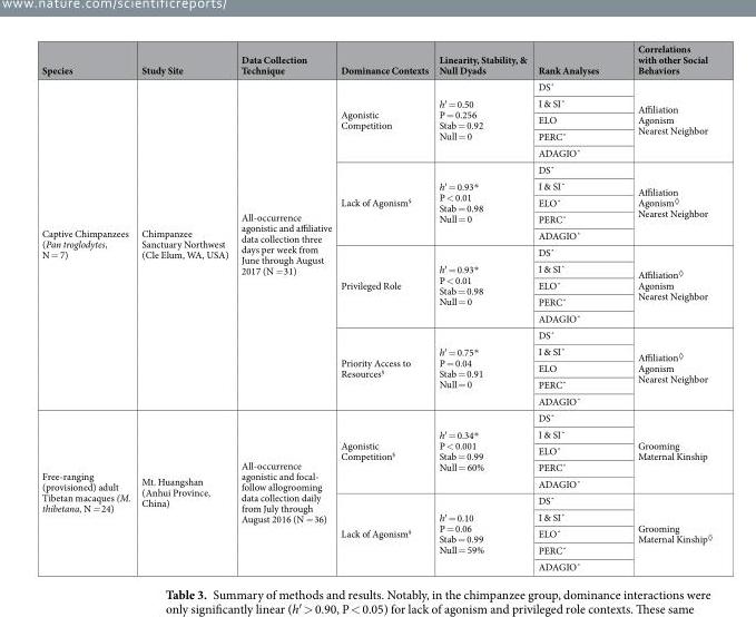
<table><thead><tr><td>Species</td><td>Study Site</td><td>Data Collection Technique</td><td>Dominance Contexts</td><td>Linearity, Stability, &amp; Null Dyads</td><td>Rank Analyses</td><td>Correlations with other Social Behaviors</td></tr></thead><tbody><tr><td rowspan="20">Captive Chimpanzees (Pan troglodytes, N = 7)</td><td rowspan="20">Chimpanzee Sanctuary Northwest (Cle Elum, WA, USA)</td><td rowspan="20">All-occurrence agonistic and affiliative data collection three days per week from June through August 2017 (N = 31)</td><td rowspan="5">Agonistic Competition</td><td rowspan="5">h′ = 0.50 P = 0.256 Stab = 0.92 Null = 0</td><td>DSˆ</td><td rowspan="5">Affiliation Agonism Nearest Neighbor</td></tr><tr><td>I &amp; SIˆ</td></tr><tr><td>ELO</td></tr><tr><td>PERCˆ</td></tr><tr><td>ADAGIOˆ</td></tr><tr><td rowspan="5">Lack of Agonism<sup>§</sup></td><td rowspan="5">h′ = 0.93* P &lt; 0.01 Stab = 0.98 Null = 0</td><td>DSˆ</td><td rowspan="5">Affiliation Agonism<sup>◊</sup> Nearest Neighbor</td></tr><tr><td>I &amp; SIˆ</td></tr><tr><td>ELOˆ</td></tr><tr><td>PERCˆ</td></tr><tr><td>ADAGIOˆ</td></tr><tr><td rowspan="5">Privileged Role</td><td rowspan="5">h′ = 0.93* P &lt; 0.01 Stab = 0.98 Null = 0</td><td>DSˆ</td><td rowspan="5">Affiliation<sup>◊</sup> Agonism Nearest Neighbor</td></tr><tr><td>I &amp; SIˆ</td></tr><tr><td>ELOˆ</td></tr><tr><td>PERCˆ</td></tr><tr><td>ADAGIOˆ</td></tr><tr><td rowspan="5">Priority Access to Resources<sup>§</sup></td><td rowspan="5">h′ = 0.75* P = 0.04 Stab = 0.91 Null = 0</td><td>DSˆ</td><td rowspan="5">Affiliation<sup>◊</sup> Agonism Nearest Neighbor</td></tr><tr><td>I &amp; SIˆ</td></tr><tr><td>ELO</td></tr><tr><td>PERCˆ</td></tr><tr><td>ADAGIOˆ</td></tr><tr><td rowspan="10">Free-ranging (provisioned) adult Tibetan macaques (M. thibetana, N = 24)</td><td rowspan="10">Mt. Huangshan (Anhui Province, China)</td><td rowspan="10">All-occurrence agonistic and focal- follow allogrooming data collection daily from July through August 2016 (N = 36)</td><td rowspan="5">Agonistic Competition<sup>§</sup></td><td rowspan="5">h′ = 0.34* P &lt; 0.001 Stab = 0.99 Null = 60%</td><td>DSˆ</td><td rowspan="5">Grooming Maternal Kinship</td></tr><tr><td>I &amp; SIˆ</td></tr><tr><td>ELOˆ</td></tr><tr><td>PERCˆ</td></tr><tr><td>ADAGIOˆ</td></tr><tr><td rowspan="5">Lack of Agonism<sup>§</sup></td><td rowspan="5">h′ = 0.10 P = 0.06 Stab = 0.99 Null = 59%</td><td>DSˆ</td><td rowspan="5">Grooming Maternal Kinship<sup>◊</sup></td></tr><tr><td>I &amp; SIˆ</td></tr><tr><td>ELOˆ</td></tr><tr><td>PERCˆ</td></tr><tr><td>ADAGIOˆ</td></tr></tbody></table>